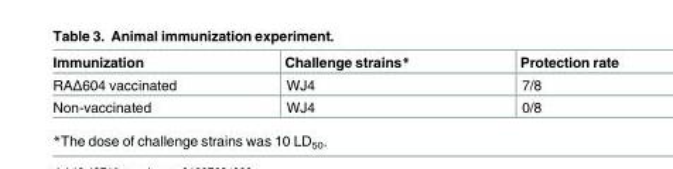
<table><thead><tr><td>Immunization</td><td>Challenge strains*</td><td>Protection rate</td></tr></thead><tbody><tr><td>RAΔ604 vaccinated</td><td>WJ4</td><td>7/8</td></tr><tr><td>Non-vaccinated</td><td>WJ4</td><td>0/8</td></tr></tbody></table>